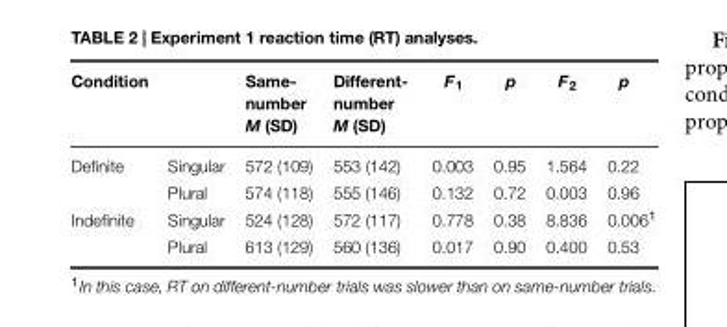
<table><thead><tr><td>Condition</td><td></td><td>Same- number M (SD)</td><td>Different- number M (SD)</td><td>F<sub>1</sub></td><td>p</td><td>F<sub>2</sub></td><td>p</td></tr></thead><tbody><tr><td rowspan="2">Definite</td><td>Singular</td><td>572 (109)</td><td>553 (142)</td><td>0.003</td><td>0.95</td><td>1.564</td><td>0.22</td></tr><tr><td>Plural</td><td>574 (118)</td><td>555 (146)</td><td>0.132</td><td>0.72</td><td>0.003</td><td>0.96</td></tr><tr><td rowspan="2">Indefinite</td><td>Singular</td><td>524 (128)</td><td>572 (117)</td><td>0.778</td><td>0.38</td><td>8.836</td><td>0.006<sup>1</sup></td></tr><tr><td>Plural</td><td>613 (129)</td><td>560 (136)</td><td>0.017</td><td>0.90</td><td>0.400</td><td>0.53</td></tr></tbody></table>